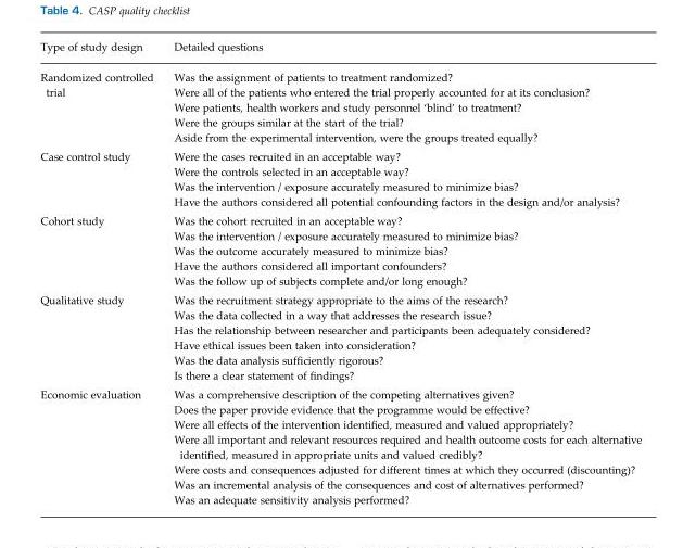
<table><thead><tr><td>Type of study design</td><td>Detailed questions</td></tr></thead><tbody><tr><td>Randomized controlled trial</td><td>Was the assignment of patients to treatment randomized? Were all of the patients who entered the trial properly accounted for at its conclusion? Were patients, health workers and study personnel ‘blind’ to treatment? Were the groups similar at the start of the trial? Aside from the experimental intervention, were the groups treated equally?</td></tr><tr><td>Case control study</td><td>Were the cases recruited in an acceptable way? Were the controls selected in an acceptable way? Was the intervention / exposure accurately measured to minimize bias? Have the authors considered all potential confounding factors in the design and/or analysis?</td></tr><tr><td>Cohort study</td><td>Was the cohort recruited in an acceptable way? Was the intervention / exposure accurately measured to minimize bias? Was the outcome accurately measured to minimize bias? Have the authors considered all important confounders? Was the follow up of subjects complete and/or long enough?</td></tr><tr><td>Qualitative study</td><td>Was the recruitment strategy appropriate to the aims of the research? Was the data collected in a way that addresses the research issue? Has the relationship between researcher and participants been adequately considered? Have ethical issues been taken into consideration? Was the data analysis sufficiently rigorous? Is there a clear statement of findings?</td></tr><tr><td>Economic evaluation</td><td>Was a comprehensive description of the competing alternatives given? Does the paper provide evidence that the programme would be effective? Were all effects of the intervention identified, measured and valued appropriately? Were all important and relevant resources required and health outcome costs for each alternative identified, measured in appropriate units and valued credibly? Were costs and consequences adjusted for different times at which they occurred (discounting)? Was an incremental analysis of the consequences and cost of alternatives performed? Was an adequate sensitivity analysis performed?</td></tr></tbody></table>